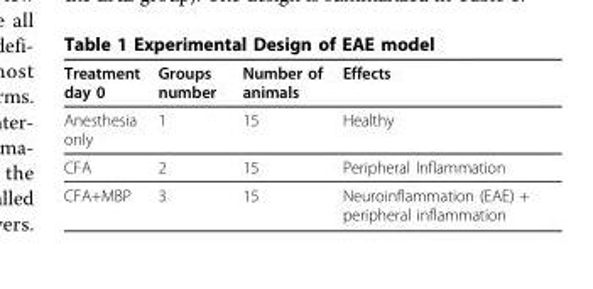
<table><thead><tr><td>Treatment day 0</td><td>Groups number</td><td>Number of animals</td><td>Effects</td></tr></thead><tbody><tr><td>Anesthesia only</td><td>1</td><td>15</td><td>Healthy</td></tr><tr><td>CFA</td><td>2</td><td>15</td><td>Peripheral Inflammation</td></tr><tr><td>CFA+MBP</td><td>3</td><td>15</td><td>Neuroinflammation (EAE) + peripheral inflammation</td></tr></tbody></table>